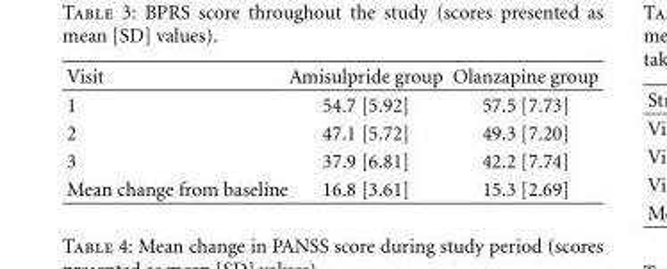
<table><thead><tr><td>Visit</td><td>Amisulpride group</td><td>Olanzapine group</td></tr></thead><tbody><tr><td>1</td><td>54.7 [5.92]</td><td>57.5 [7.73]</td></tr><tr><td>2</td><td>47.1 [5.72]</td><td>49.3 [7.20]</td></tr><tr><td>3</td><td>37.9 [6.81]</td><td>42.2 [7.74]</td></tr><tr><td>Mean change from baseline</td><td>16.8 [3.61]</td><td>15.3 [2.69]</td></tr></tbody></table>